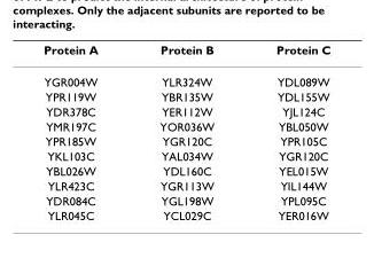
<table><thead><tr><td>Protein A</td><td>Protein B</td><td>Protein C</td></tr></thead><tbody><tr><td>YGR004W</td><td>YLR324W</td><td>YDL089W</td></tr><tr><td>YPR119W</td><td>YBR135W</td><td>YDL155W</td></tr><tr><td>YDR378C</td><td>YER112W</td><td>YJL124C</td></tr><tr><td>YMR197C</td><td>YOR036W</td><td>YBL050W</td></tr><tr><td>YPR185W</td><td>YGR120C</td><td>YPR105C</td></tr><tr><td>YKL103C</td><td>YAL034W</td><td>YGR120C</td></tr><tr><td>YBL026W</td><td>YDL160C</td><td>YEL015W</td></tr><tr><td>YLR423C</td><td>YGR113W</td><td>YIL144W</td></tr><tr><td>YDR084C</td><td>YGL198W</td><td>YPL095C</td></tr><tr><td>YLR045C</td><td>YCL029C</td><td>YER016W</td></tr></tbody></table>